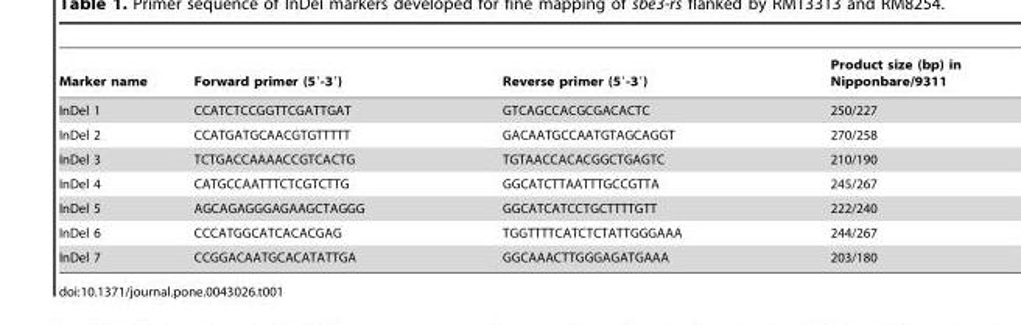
<table><thead><tr><td>Marker name</td><td>Forward primer (5′-3′)</td><td>Reverse primer (5′-3′)</td><td>Product size (bp) in Nipponbare/9311</td></tr></thead><tbody><tr><td>InDel 1</td><td>CCATCTCCGGTTCGATTGAT</td><td>GTCAGCCACGCGACACTC</td><td>250/227</td></tr><tr><td>InDel 2</td><td>CCATGATGCAACGTGTTTTT</td><td>GACAATGCCAATGTAGCAGGT</td><td>270/258</td></tr><tr><td>InDel 3</td><td>TCTGACCAAAACCGTCACTG</td><td>TGTAACCACACGGCTGAGTC</td><td>210/190</td></tr><tr><td>InDel 4</td><td>CATGCCAATTTCTCGTCTTG</td><td>GGCATCTTAATTTGCCGTTA</td><td>245/267</td></tr><tr><td>InDel 5</td><td>AGCAGAGGGAGAAGCTAGGG</td><td>GGCATCATCCTGCTTTTGTT</td><td>222/240</td></tr><tr><td>InDel 6</td><td>CCCATGGCATCACACGAG</td><td>TGGTTTTCATCTCTATTGGGAAA</td><td>244/267</td></tr><tr><td>InDel 7</td><td>CCGGACAATGCACATATTGA</td><td>GGCAAACTTGGGAGATGAAA</td><td>203/180</td></tr></tbody></table>